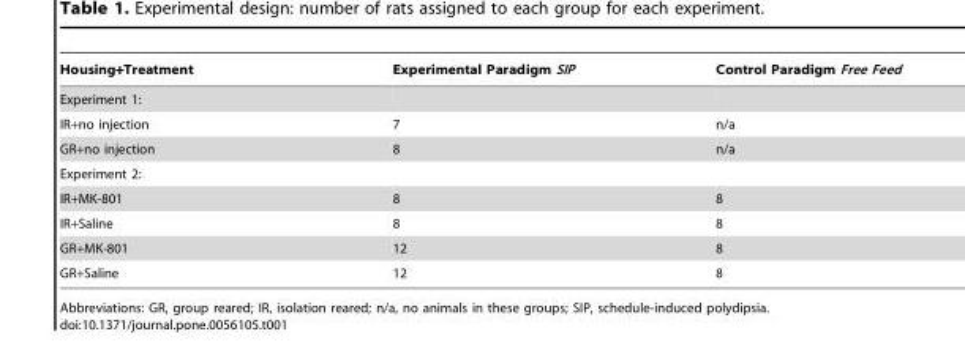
<table><thead><tr><td>Housing+Treatment</td><td>Experimental Paradigm SIP</td><td>Control Paradigm Free Feed</td></tr></thead><tbody><tr><td colspan="3">Experiment 1:</td></tr><tr><td>IR+no injection</td><td>7</td><td>n/a</td></tr><tr><td>GR+no injection</td><td>8</td><td>n/a</td></tr><tr><td colspan="3">Experiment 2:</td></tr><tr><td>IR+MK-801</td><td>8</td><td>8</td></tr><tr><td>IR+Saline</td><td>8</td><td>8</td></tr><tr><td>GR+MK-801</td><td>12</td><td>8</td></tr><tr><td>GR+Saline</td><td>12</td><td>8</td></tr></tbody></table>